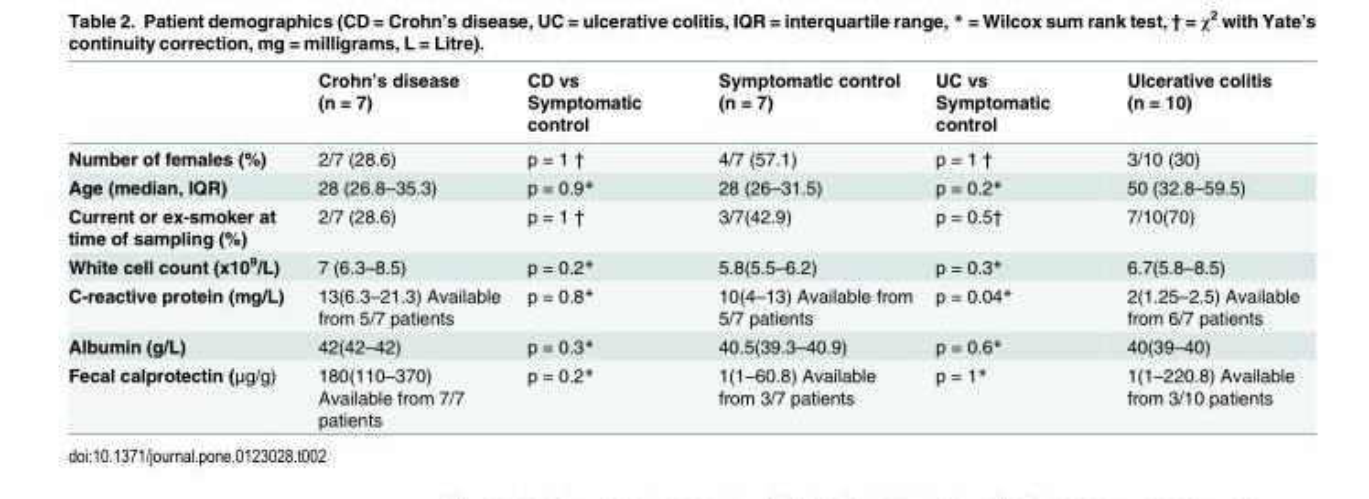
<table><thead><tr><td></td><td>Crohn’s disease (n = 7)</td><td>CD vs Symptomatic control</td><td>Symptomatic control (n = 7)</td><td>UC vs Symptomatic control</td><td>Ulcerative colitis (n = 10)</td></tr></thead><tbody><tr><td>Number of females (%)</td><td>2/7 (28.6)</td><td>p = 1 †</td><td>4/7 (57.1)</td><td>p = 1 †</td><td>3/10 (30)</td></tr><tr><td>Age (median, IQR)</td><td>28 (26.8–35.3)</td><td>p = 0.9*</td><td>28 (26–31.5)</td><td>p = 0.2*</td><td>50 (32.8–59.5)</td></tr><tr><td>Current or ex-smoker at time of sampling (%)</td><td>2/7 (28.6)</td><td>p = 1 †</td><td>3/7(42.9)</td><td>p = 0.5†</td><td>7/10(70)</td></tr><tr><td>White cell count (x10<sup>9</sup>/L)</td><td>7 (6.3–8.5)</td><td>p = 0.2*</td><td>5.8(5.5–6.2)</td><td>p = 0.3*</td><td>6.7(5.8–8.5)</td></tr><tr><td>C-reactive protein (mg/L)</td><td>13(6.3–21.3) Available from 5/7 patients</td><td>p = 0.8*</td><td>10(4–13) Available from 5/7 patients</td><td>p = 0.04*</td><td>2(1.25–2.5) Available from 6/7 patients</td></tr><tr><td>Albumin (g/L)</td><td>42(42–42)</td><td>p = 0.3*</td><td>40.5(39.3–40.9)</td><td>p = 0.6*</td><td>40(39–40)</td></tr><tr><td>Fecal calprotectin (μg/g)</td><td>180(110–370) Available from 7/7 patients</td><td>p = 0.2*</td><td>1(1–60.8) Available from 3/7 patients</td><td>p = 1*</td><td>1(1–220.8) Available from 3/10 patients</td></tr></tbody></table>